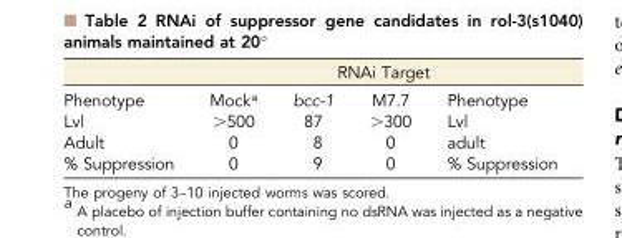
<table><thead><tr><td rowspan="2">Phenotype</td><td colspan="4">RNAi Target</td></tr><tr><td>Mock<sup>a</sup></td><td>bcc-1</td><td>M7.7</td><td>Phenotype</td></tr></thead><tbody><tr><td>Lvl</td><td>&gt;500</td><td>87</td><td>&gt;300</td><td>Lvl</td></tr><tr><td>Adult</td><td>0</td><td>8</td><td>0</td><td>adult</td></tr><tr><td>% Suppression</td><td>0</td><td>9</td><td>0</td><td>% Suppression</td></tr></tbody></table>